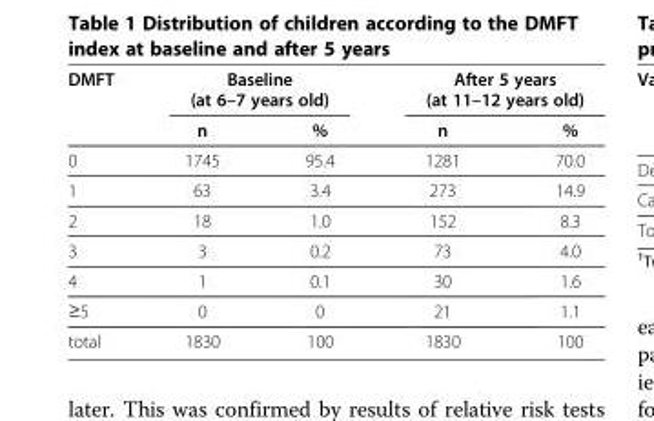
<table><thead><tr><td rowspan="2">DMFT</td><td colspan="2">Baseline (at 6–7 years old)</td><td colspan="2">After 5 years (at 11–12 years old)</td></tr><tr><td>n</td><td>%</td><td>n</td><td>%</td></tr></thead><tbody><tr><td>0</td><td>1745</td><td>95.4</td><td>1281</td><td>70.0</td></tr><tr><td>1</td><td>63</td><td>3.4</td><td>273</td><td>14.9</td></tr><tr><td>2</td><td>18</td><td>1.0</td><td>152</td><td>8.3</td></tr><tr><td>3</td><td>3</td><td>0.2</td><td>73</td><td>4.0</td></tr><tr><td>4</td><td>1</td><td>0.1</td><td>30</td><td>1.6</td></tr><tr><td>≥5</td><td>0</td><td>0</td><td>21</td><td>1.1</td></tr><tr><td>total</td><td>1830</td><td>100</td><td>1830</td><td>100</td></tr></tbody></table>